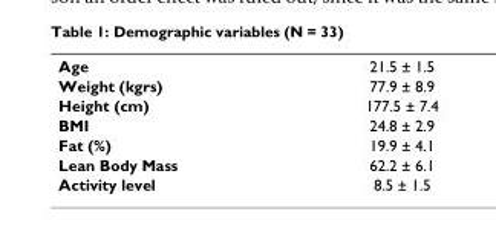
<table><tbody><tr><td>Age</td><td>21.5 ± 1.5</td></tr><tr><td>Weight (kgrs)</td><td>77.9 ± 8.9</td></tr><tr><td>Height (cm)</td><td>177.5 ± 7.4</td></tr><tr><td>BMI</td><td>24.8 ± 2.9</td></tr><tr><td>Fat (%)</td><td>19.9 ± 4.1</td></tr><tr><td>Lean Body Mass</td><td>62.2 ± 6.1</td></tr><tr><td>Activity level</td><td>8.5 ± 1.5</td></tr></tbody></table>